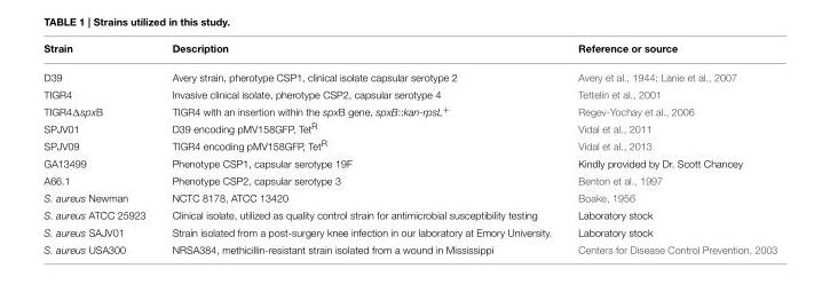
<table><thead><tr><td>Strain</td><td>Description</td><td>Reference or source</td></tr></thead><tbody><tr><td>D39</td><td>Avery strain, pherotype CSP1, clinical isolate capsular serotype 2</td><td>Avery et al., 1944; Lanie et al., 2007</td></tr><tr><td>TIGR4</td><td>Invasive clinical isolate, pherotype CSP2, capsular serotype 4</td><td>Tettelin et al., 2001</td></tr><tr><td>TIGR4ΔspxB</td><td>TIGR4 with an insertion within the spxB gene, spxB::kan-rpsL+</td><td>Regev-Yochay et al., 2006</td></tr><tr><td>SPJV01</td><td>D39 encoding pMV158GFP, Tet<sup>R</sup></td><td>Vidal et al., 2011</td></tr><tr><td>SPJV09</td><td>TIGR4 encoding pMV158GFP, Tet<sup>R</sup></td><td>Vidal et al., 2013</td></tr><tr><td>GA13499</td><td>Phenotype CSP1, capsular serotype 19F</td><td>Kindly provided by Dr. Scott Chancey</td></tr><tr><td>A66.1</td><td>Phenotype CSP2, capsular serotype 3</td><td>Benton et al., 1997</td></tr><tr><td>S. aureus Newman</td><td>NCTC 8178, ATCC 13420</td><td>Boake, 1956</td></tr><tr><td>S. aureus ATCC 25923</td><td>Clinical isolate, utilized as quality control strain for antimicrobial susceptibility testing</td><td>Laboratory stock</td></tr><tr><td>S. aureus SAJV01</td><td>Strain isolated from a post-surgery knee infection in our laboratory at Emory University.</td><td>Laboratory stock</td></tr><tr><td>S. aureus USA300</td><td>NRSA384, methicillin-resistant strain isolated from a wound in Mississippi</td><td>Centers for Disease Control Prevention, 2003</td></tr></tbody></table>